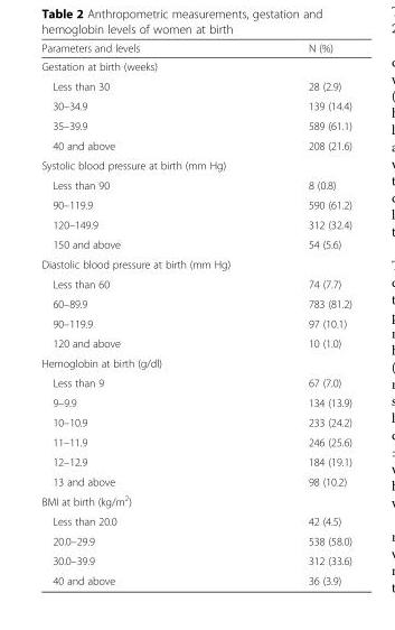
<table><thead><tr><td>Parameters and levels</td><td>N (%)</td></tr></thead><tbody><tr><td colspan="2">Gestation at birth (weeks)</td></tr><tr><td>Less than 30</td><td>28 (2.9)</td></tr><tr><td>30–34.9</td><td>139 (14.4)</td></tr><tr><td>35–39.9</td><td>589 (61.1)</td></tr><tr><td>40 and above</td><td>208 (21.6)</td></tr><tr><td colspan="2">Systolic blood pressure at birth (mm Hg)</td></tr><tr><td>Less than 90</td><td>8 (0.8)</td></tr><tr><td>90–119.9</td><td>590 (61.2)</td></tr><tr><td>120–149.9</td><td>312 (32.4)</td></tr><tr><td>150 and above</td><td>54 (5.6)</td></tr><tr><td colspan="2">Diastolic blood pressure at birth (mm Hg)</td></tr><tr><td>Less than 60</td><td>74 (7.7)</td></tr><tr><td>60–89.9</td><td>783 (81.2)</td></tr><tr><td>90–119.9</td><td>97 (10.1)</td></tr><tr><td>120 and above</td><td>10 (1.0)</td></tr><tr><td colspan="2">Hemoglobin at birth (g/dl)</td></tr><tr><td>Less than 9</td><td>67 (7.0)</td></tr><tr><td>9–9.9</td><td>134 (13.9)</td></tr><tr><td>10–10.9</td><td>233 (24.2)</td></tr><tr><td>11–11.9</td><td>246 (25.6)</td></tr><tr><td>12–12.9</td><td>184 (19.1)</td></tr><tr><td>13 and above</td><td>98 (10.2)</td></tr><tr><td colspan="2">BMI at birth (kg/m<sup>2</sup>)</td></tr><tr><td>Less than 20.0</td><td>42 (4.5)</td></tr><tr><td>20.0–29.9</td><td>538 (58.0)</td></tr><tr><td>30.0–39.9</td><td>312 (33.6)</td></tr><tr><td>40 and above</td><td>36 (3.9)</td></tr></tbody></table>